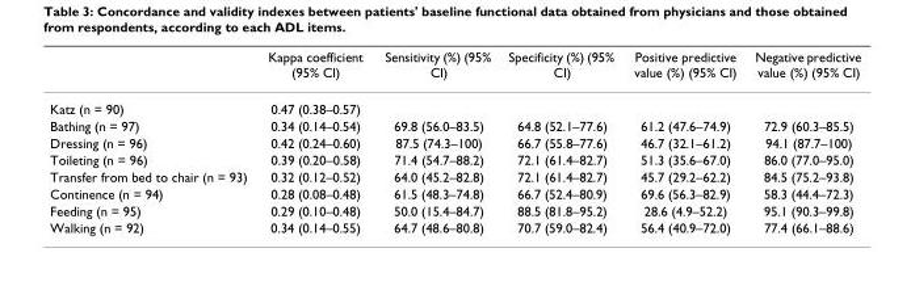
<table><thead><tr><td></td><td>Kappa coefficient (95% CI)</td><td>Sensitivity (%) (95% CI)</td><td>Specificity (%) (95% CI)</td><td>Positive predictive value (%) (95% CI)</td><td>Negative predictive value (%) (95% CI)</td></tr></thead><tbody><tr><td>Katz (n = 90)</td><td>0.47 (0.38–0.57)</td><td></td><td></td><td></td><td></td></tr><tr><td>Bathing (n = 97)</td><td>0.34 (0.14–0.54)</td><td>69.8 (56.0–83.5)</td><td>64.8 (52.1–77.6)</td><td>61.2 (47.6–74.9)</td><td>72.9 (60.3–85.5)</td></tr><tr><td>Dressing (n = 96)</td><td>0.42 (0.24–0.60)</td><td>87.5 (74.3–100)</td><td>66.7 (55.8–77.6)</td><td>46.7 (32.1–61.2)</td><td>94.1 (87.7–100)</td></tr><tr><td>Toileting (n = 96)</td><td>0.39 (0.20–0.58)</td><td>71.4 (54.7–88.2)</td><td>72.1 (61.4–82.7)</td><td>51.3 (35.6–67.0)</td><td>86.0 (77.0–95.0)</td></tr><tr><td>Transfer from bed to chair (n = 93)</td><td>0.32 (0.12–0.52)</td><td>64.0 (45.2–82.8)</td><td>72.1 (61.4–82.7)</td><td>45.7 (29.2–62.2)</td><td>84.5 (75.2–93.8)</td></tr><tr><td>Continence (n = 94)</td><td>0.28 (0.08–0.48)</td><td>61.5 (48.3–74.8)</td><td>66.7 (52.4–80.9)</td><td>69.6 (56.3–82.9)</td><td>58.3 (44.4–72.3)</td></tr><tr><td>Feeding (n = 95)</td><td>0.29 (0.10–0.48)</td><td>50.0 (15.4–84.7)</td><td>88.5 (81.8–95.2)</td><td>28.6 (4.9–52.2)</td><td>95.1 (90.3–99.8)</td></tr><tr><td>Walking (n = 92)</td><td>0.34 (0.14–0.55)</td><td>64.7 (48.6–80.8)</td><td>70.7 (59.0–82.4)</td><td>56.4 (40.9–72.0)</td><td>77.4 (66.1–88.6)</td></tr></tbody></table>